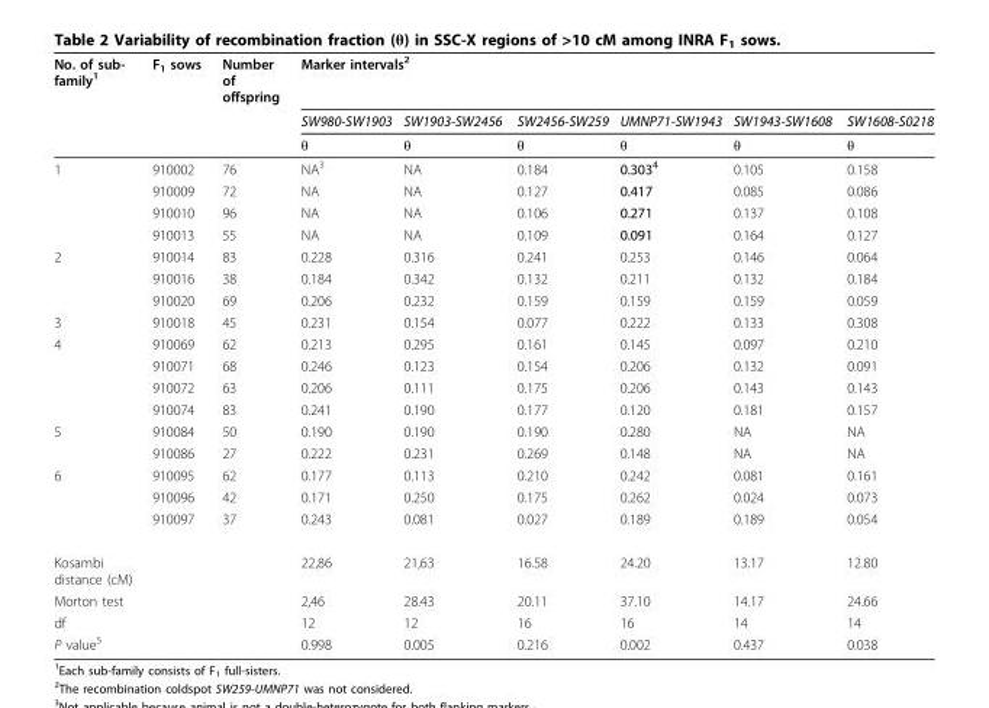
<table><thead><tr><td rowspan="3">No. of sub- family<sup>1</sup></td><td rowspan="3">F<sub>1</sub> sows</td><td rowspan="3">Number of offspring</td><td colspan="6">Marker intervals<sup>2</sup></td></tr><tr><td rowspan="2">SW980-SW1903 θ</td><td rowspan="2">SW1903-SW2456 θ</td><td rowspan="2">SW2456-SW259 θ</td><td rowspan="2">UMNP71-SW1943 θ</td><td rowspan="2">SW1943-SW1608 θ</td><td rowspan="2">SW1608-S0218 θ</td></tr><tr></tr></thead><tbody><tr><td rowspan="4">1</td><td>910002</td><td>76</td><td>NA<sup>3</sup></td><td>NA</td><td>0.184</td><td>0.303<sup>4</sup></td><td>0.105</td><td>0.158</td></tr><tr><td>910009</td><td>72</td><td>NA</td><td>NA</td><td>0.127</td><td>0.417</td><td>0.085</td><td>0.086</td></tr><tr><td>910010</td><td>96</td><td>NA</td><td>NA</td><td>0.106</td><td>0.271</td><td>0.137</td><td>0.108</td></tr><tr><td>910013</td><td>55</td><td>NA</td><td>NA</td><td>0.109</td><td>0.091</td><td>0.164</td><td>0.127</td></tr><tr><td rowspan="3">2</td><td>910014</td><td>83</td><td>0.228</td><td>0.316</td><td>0.241</td><td>0.253</td><td>0.146</td><td>0.064</td></tr><tr><td>910016</td><td>38</td><td>0.184</td><td>0.342</td><td>0.132</td><td>0.211</td><td>0.132</td><td>0.184</td></tr><tr><td>910020</td><td>69</td><td>0.206</td><td>0.232</td><td>0.159</td><td>0.159</td><td>0.159</td><td>0.059</td></tr><tr><td>3</td><td>910018</td><td>45</td><td>0.231</td><td>0.154</td><td>0.077</td><td>0.222</td><td>0.133</td><td>0.308</td></tr><tr><td rowspan="4">4</td><td>910069</td><td>62</td><td>0.213</td><td>0.295</td><td>0.161</td><td>0.145</td><td>0.097</td><td>0.210</td></tr><tr><td>910071</td><td>68</td><td>0.246</td><td>0.123</td><td>0.154</td><td>0.206</td><td>0.132</td><td>0.091</td></tr><tr><td>910072</td><td>63</td><td>0.206</td><td>0.111</td><td>0.175</td><td>0.206</td><td>0.143</td><td>0.143</td></tr><tr><td>910074</td><td>83</td><td>0.241</td><td>0.190</td><td>0.177</td><td>0.120</td><td>0.181</td><td>0.157</td></tr><tr><td rowspan="2">5</td><td>910084</td><td>50</td><td>0.190</td><td>0.190</td><td>0.190</td><td>0.280</td><td>NA</td><td>NA</td></tr><tr><td>910086</td><td>27</td><td>0.222</td><td>0.231</td><td>0.269</td><td>0.148</td><td>NA</td><td>NA</td></tr><tr><td rowspan="3">6</td><td>910095</td><td>62</td><td>0.177</td><td>0.113</td><td>0.210</td><td>0.242</td><td>0.081</td><td>0.161</td></tr><tr><td>910096</td><td>42</td><td>0.171</td><td>0.250</td><td>0.175</td><td>0.262</td><td>0.024</td><td>0.073</td></tr><tr><td>910097</td><td>37</td><td>0.243</td><td>0.081</td><td>0.027</td><td>0.189</td><td>0.189</td><td>0.054</td></tr><tr><td>Kosambi distance (cM)</td><td></td><td></td><td>22,86</td><td>21,63</td><td>16.58</td><td>24.20</td><td>13.17</td><td>12.80</td></tr><tr><td>Morton test</td><td></td><td></td><td>2,46</td><td>28.43</td><td>20.11</td><td>37.10</td><td>14.17</td><td>24.66</td></tr><tr><td>df</td><td></td><td></td><td>12</td><td>12</td><td>16</td><td>16</td><td>14</td><td>14</td></tr><tr><td>P value<sup>5</sup></td><td></td><td></td><td>0.998</td><td>0.005</td><td>0.216</td><td>0.002</td><td>0.437</td><td>0.038</td></tr></tbody></table>